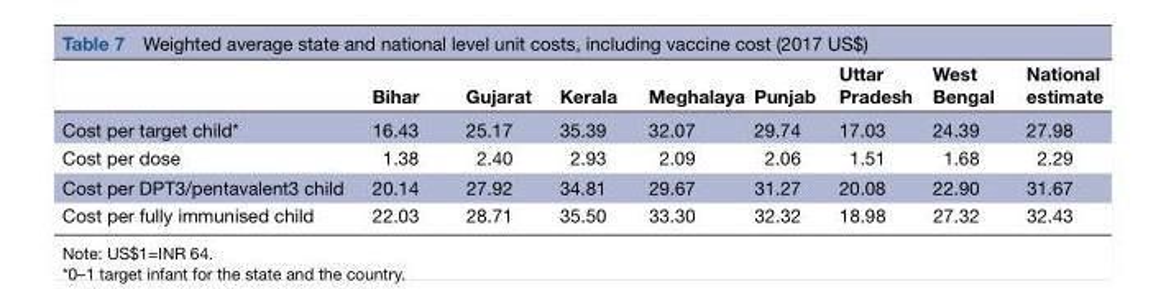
<table><thead><tr><td></td><td>Bihar</td><td>Gujarat</td><td>Kerala</td><td>Meghalaya</td><td>Punjab</td><td>Uttar Pradesh</td><td>West Bengal</td><td>National estimate</td></tr></thead><tbody><tr><td>Cost per target child*</td><td>16.43</td><td>25.17</td><td>35.39</td><td>32.07</td><td>29.74</td><td>17.03</td><td>24.39</td><td>27.98</td></tr><tr><td>Cost per dose</td><td>1.38</td><td>2.40</td><td>2.93</td><td>2.09</td><td>2.06</td><td>1.51</td><td>1.68</td><td>2.29</td></tr><tr><td>Cost per DPT3/pentavalent3 child</td><td>20.14</td><td>27.92</td><td>34.81</td><td>29.67</td><td>31.27</td><td>20.08</td><td>22.90</td><td>31.67</td></tr><tr><td>Cost per fully immunised child</td><td>22.03</td><td>28.71</td><td>35.50</td><td>33.30</td><td>32.32</td><td>18.98</td><td>27.32</td><td>32.43</td></tr></tbody></table>